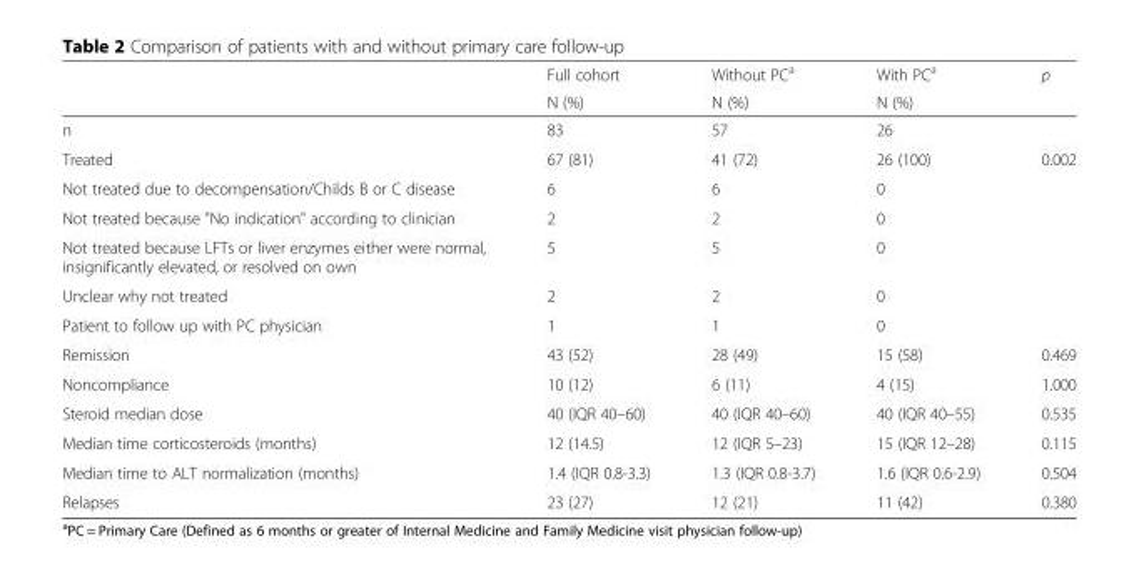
<table><thead><tr><td rowspan="2"></td><td rowspan="2">Full cohort N (%)</td><td rowspan="2">Without PC<sup>a</sup> N (%)</td><td rowspan="2">With PC<sup>a</sup> N (%)</td><td rowspan="2">p</td></tr><tr></tr></thead><tbody><tr><td>n</td><td>83</td><td>57</td><td>26</td><td></td></tr><tr><td>Treated</td><td>67 (81)</td><td>41 (72)</td><td>26 (100)</td><td>0.002</td></tr><tr><td>Not treated due to decompensation/Childs B or C disease</td><td>6</td><td>6</td><td>0</td><td></td></tr><tr><td>Not treated because &quot;No indication&quot; according to clinician</td><td>2</td><td>2</td><td>0</td><td></td></tr><tr><td>Not treated because LFTs or liver enzymes either were normal, insignificantly elevated, or resolved on own</td><td>5</td><td>5</td><td>0</td><td></td></tr><tr><td>Unclear why not treated</td><td>2</td><td>2</td><td>0</td><td></td></tr><tr><td>Patient to follow up with PC physician</td><td>1</td><td>1</td><td>0</td><td></td></tr><tr><td>Remission</td><td>43 (52)</td><td>28 (49)</td><td>15 (58)</td><td>0.469</td></tr><tr><td>Noncompliance</td><td>10 (12)</td><td>6 (11)</td><td>4 (15)</td><td>1.000</td></tr><tr><td>Steroid median dose</td><td>40 (IQR 40–60)</td><td>40 (IQR 40–60)</td><td>40 (IQR 40–55)</td><td>0.535</td></tr><tr><td>Median time corticosteroids (months)</td><td>12 (14.5)</td><td>12 (IQR 5–23)</td><td>15 (IQR 12–28)</td><td>0.115</td></tr><tr><td>Median time to ALT normalization (months)</td><td>1.4 (IQR 0.8-3.3)</td><td>1.3 (IQR 0.8-3.7)</td><td>1.6 (IQR 0.6-2.9)</td><td>0.504</td></tr><tr><td>Relapses</td><td>23 (27)</td><td>12 (21)</td><td>11 (42)</td><td>0.380</td></tr></tbody></table>